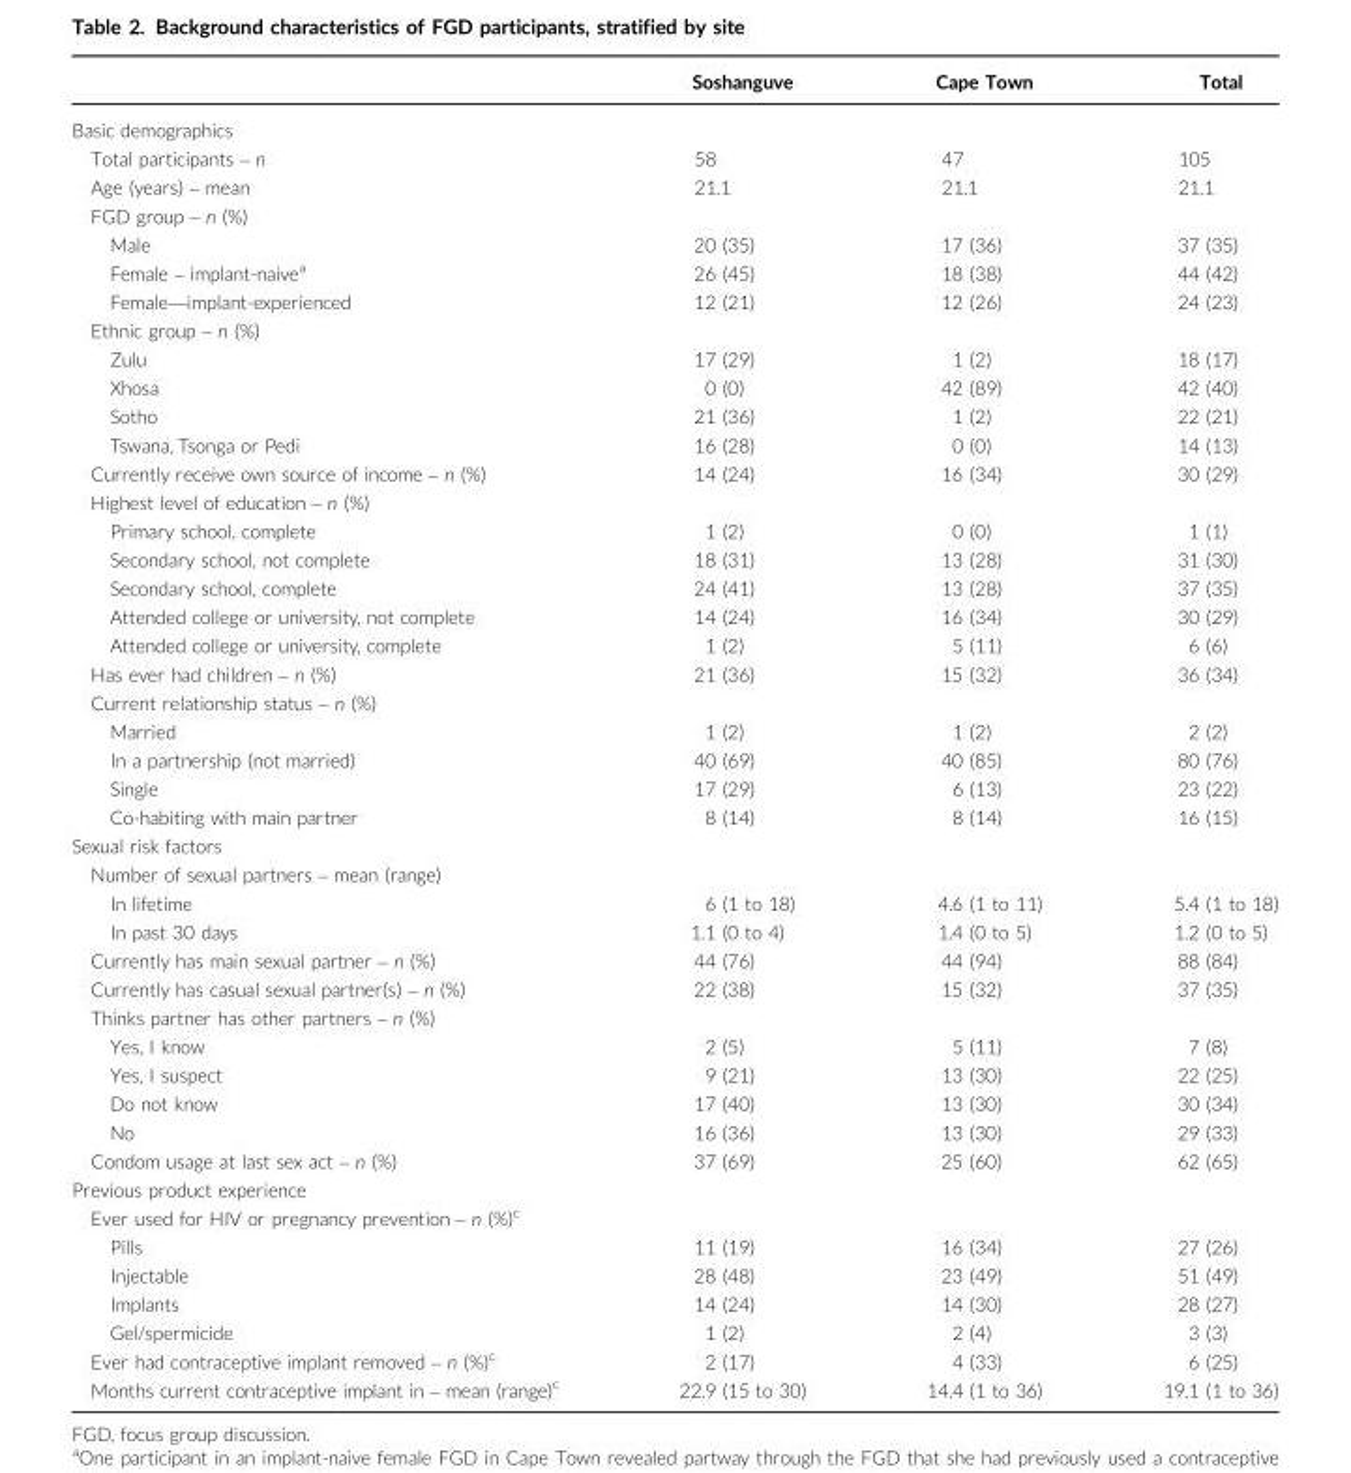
<table><thead><tr><td></td><td>Soshanguve</td><td>Cape Town</td><td>Total</td></tr></thead><tbody><tr><td colspan="4">Basic demographics</td></tr><tr><td>Total participants – n</td><td>58</td><td>47</td><td>105</td></tr><tr><td>Age (years) – mean</td><td>21.1</td><td>21.1</td><td>21.1</td></tr><tr><td colspan="4">FGD group – n (%)</td></tr><tr><td>Male</td><td>20 (35)</td><td>17 (36)</td><td>37 (35)</td></tr><tr><td>Female – implant-naive<sup>a</sup></td><td>26 (45)</td><td>18 (38)</td><td>44 (42)</td></tr><tr><td>Female—implant-experienced</td><td>12 (21)</td><td>12 (26)</td><td>24 (23)</td></tr><tr><td colspan="4">Ethnic group – n (%)</td></tr><tr><td>Zulu</td><td>17 (29)</td><td>1 (2)</td><td>18 (17)</td></tr><tr><td>Xhosa</td><td>0 (0)</td><td>42 (89)</td><td>42 (40)</td></tr><tr><td>Sotho</td><td>21 (36)</td><td>1 (2)</td><td>22 (21)</td></tr><tr><td>Tswana, Tsonga or Pedi</td><td>16 (28)</td><td>0 (0)</td><td>14 (13)</td></tr><tr><td>Currently receive own source of income – n (%)</td><td>14 (24)</td><td>16 (34)</td><td>30 (29)</td></tr><tr><td colspan="4">Highest level of education – n (%)</td></tr><tr><td>Primary school, complete</td><td>1 (2)</td><td>0 (0)</td><td>1 (1)</td></tr><tr><td>Secondary school, not complete</td><td>18 (31)</td><td>13 (28)</td><td>31 (30)</td></tr><tr><td>Secondary school, complete</td><td>24 (41)</td><td>13 (28)</td><td>37 (35)</td></tr><tr><td>Attended college or university, not complete</td><td>14 (24)</td><td>16 (34)</td><td>30 (29)</td></tr><tr><td>Attended college or university, complete</td><td>1 (2)</td><td>5 (11)</td><td>6 (6)</td></tr><tr><td>Has ever had children – n (%)</td><td>21 (36)</td><td>15 (32)</td><td>36 (34)</td></tr><tr><td colspan="4">Current relationship status – n (%)</td></tr><tr><td>Married</td><td>1 (2)</td><td>1 (2)</td><td>2 (2)</td></tr><tr><td>In a partnership (not married)</td><td>40 (69)</td><td>40 (85)</td><td>80 (76)</td></tr><tr><td>Single</td><td>17 (29)</td><td>6 (13)</td><td>23 (22)</td></tr><tr><td>Co-habiting with main partner</td><td>8 (14)</td><td>8 (14)</td><td>16 (15)</td></tr><tr><td colspan="4">Sexual risk factors</td></tr><tr><td colspan="4">Number of sexual partners – mean (range)</td></tr><tr><td>In lifetime</td><td>6 (1 to 18)</td><td>4.6 (1 to 11)</td><td>5.4 (1 to 18)</td></tr><tr><td>In past 30 days</td><td>1.1 (0 to 4)</td><td>1.4 (0 to 5)</td><td>1.2 (0 to 5)</td></tr><tr><td>Currently has main sexual partner – n (%)</td><td>44 (76)</td><td>44 (94)</td><td>88 (84)</td></tr><tr><td>Currently has casual sexual partner(s) – n (%)</td><td>22 (38)</td><td>15 (32)</td><td>37 (35)</td></tr><tr><td colspan="4">Thinks partner has other partners – n (%)</td></tr><tr><td>Yes, I know</td><td>2 (5)</td><td>5 (11)</td><td>7 (8)</td></tr><tr><td>Yes, I suspect</td><td>9 (21)</td><td>13 (30)</td><td>22 (25)</td></tr><tr><td>Do not know</td><td>17 (40)</td><td>13 (30)</td><td>30 (34)</td></tr><tr><td>No</td><td>16 (36)</td><td>13 (30)</td><td>29 (33)</td></tr><tr><td>Condom usage at last sex act – n (%)</td><td>37 (69)</td><td>25 (60)</td><td>62 (65)</td></tr><tr><td colspan="4">Previous product experience</td></tr><tr><td colspan="4">Ever used for HIV or pregnancy prevention – n (%)c</td></tr><tr><td>Pills</td><td>11 (19)</td><td>16 (34)</td><td>27 (26)</td></tr><tr><td>Injectable</td><td>28 (48)</td><td>23 (49)</td><td>51 (49)</td></tr><tr><td>Implants</td><td>14 (24)</td><td>14 (30)</td><td>28 (27)</td></tr><tr><td>Gel/spermicide</td><td>1 (2)</td><td>2 (4)</td><td>3 (3)</td></tr><tr><td>Ever had contraceptive implant removed – n (%)<sup>c</sup></td><td>2 (17)</td><td>4 (33)</td><td>6 (25)</td></tr><tr><td>Months current contraceptive implant in – mean (range)<sup>c</sup></td><td>22.9 (15 to 30)</td><td>14.4 (1 to 36)</td><td>19.1 (1 to 36)</td></tr></tbody></table>